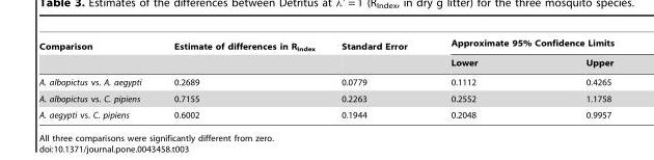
<table><thead><tr><td rowspan="2">Comparison</td><td rowspan="2">Estimate of differences in R<sub>Index</sub></td><td rowspan="2">Standard Error</td><td colspan="2">Approximate 95% Confidence Limits</td></tr><tr><td>Lower</td><td>Upper</td></tr></thead><tbody><tr><td>A. albopictus vs. A. aegypti</td><td>0.2689</td><td>0.0779</td><td>0.1112</td><td>0.4265</td></tr><tr><td>A. albopictus vs. C. pipiens</td><td>0.7155</td><td>0.2263</td><td>0.2552</td><td>1.1758</td></tr><tr><td>A. aegypti vs. C. pipiens</td><td>0.6002</td><td>0.1944</td><td>0.2048</td><td>0.9957</td></tr></tbody></table>